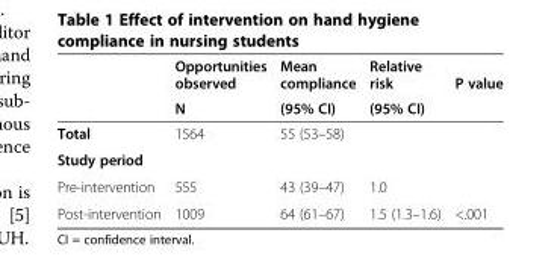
<table><thead><tr><td rowspan="2"></td><td rowspan="2">Opportunities observed N</td><td rowspan="2">Mean compliance (95% CI)</td><td rowspan="2">Relative risk (95% CI)</td><td rowspan="2">P value</td></tr><tr></tr></thead><tbody><tr><td>Total</td><td>1564</td><td>55 (53–58)</td><td></td><td></td></tr><tr><td colspan="5">Study period</td></tr><tr><td>Pre-intervention</td><td>555</td><td>43 (39–47)</td><td>1.0</td><td></td></tr><tr><td>Post-intervention</td><td>1009</td><td>64 (61–67)</td><td>1.5 (1.3–1.6)</td><td>&lt;.001</td></tr></tbody></table>